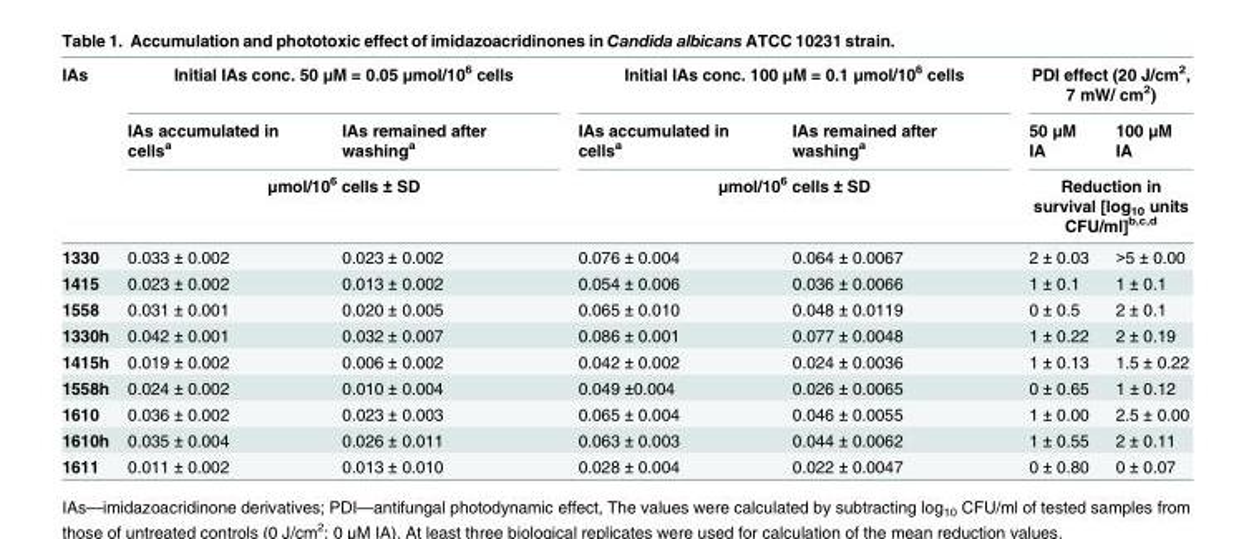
<table><thead><tr><td rowspan="3">IAs</td><td colspan="2">Initial IAs conc. 50 μM = 0.05 μmol/10<sup>6</sup> cells</td><td colspan="2">Initial IAs conc. 100 μM = 0.1 μmol/10<sup>6</sup> cells</td><td colspan="2">PDI effect (20 J/cm<sup>2</sup>, 7 mW/ cm<sup>2</sup>)</td></tr><tr><td>IAs accumulated in cells<sup>a</sup></td><td>IAs remained after washing<sup>a</sup></td><td>IAs accumulated in cells<sup>a</sup></td><td>IAs remained after washing<sup>a</sup></td><td>50 μM IA</td><td>100 μM IA</td></tr><tr><td colspan="2">μmol/10<sup>6</sup> cells ± SD</td><td colspan="2">μmol/10<sup>6</sup> cells ± SD</td><td colspan="2">Reduction in survival [log<sub>10</sub> units CFU/ml]<sup>b,c,d</sup></td></tr></thead><tbody><tr><td>1330</td><td>0.033 ± 0.002</td><td>0.023 ± 0.002</td><td>0.076 ± 0.004</td><td>0.064 ± 0.0067</td><td>2 ± 0.03</td><td>&gt;5 ± 0.00</td></tr><tr><td>1415</td><td>0.023 ± 0.002</td><td>0.013 ± 0.002</td><td>0.054 ± 0.006</td><td>0.036 ± 0.0066</td><td>1 ± 0.1</td><td>1 ± 0.1</td></tr><tr><td>1558</td><td>0.031 ± 0.001</td><td>0.020 ± 0.005</td><td>0.065 ± 0.010</td><td>0.048 ± 0.0119</td><td>0 ± 0.5</td><td>2 ± 0.1</td></tr><tr><td>1330h</td><td>0.042 ± 0.001</td><td>0.032 ± 0.007</td><td>0.086 ± 0.001</td><td>0.077 ± 0.0048</td><td>1 ± 0.22</td><td>2 ± 0.19</td></tr><tr><td>1415h</td><td>0.019 ± 0.002</td><td>0.006 ± 0.002</td><td>0.042 ± 0.002</td><td>0.024 ± 0.0036</td><td>1 ± 0.13</td><td>1.5 ± 0.22</td></tr><tr><td>1558h</td><td>0.024 ± 0.002</td><td>0.010 ± 0.004</td><td>0.049 ±0.004</td><td>0.026 ± 0.0065</td><td>0 ± 0.65</td><td>1 ± 0.12</td></tr><tr><td>1610</td><td>0.036 ± 0.002</td><td>0.023 ± 0.003</td><td>0.065 ± 0.004</td><td>0.046 ± 0.0055</td><td>1 ± 0.00</td><td>2.5 ± 0.00</td></tr><tr><td>1610h</td><td>0.035 ± 0.004</td><td>0.026 ± 0.011</td><td>0.063 ± 0.003</td><td>0.044 ± 0.0062</td><td>1 ± 0.55</td><td>2 ± 0.11</td></tr><tr><td>1611</td><td>0.011 ± 0.002</td><td>0.013 ± 0.010</td><td>0.028 ± 0.004</td><td>0.022 ± 0.0047</td><td>0 ± 0.80</td><td>0 ± 0.07</td></tr></tbody></table>